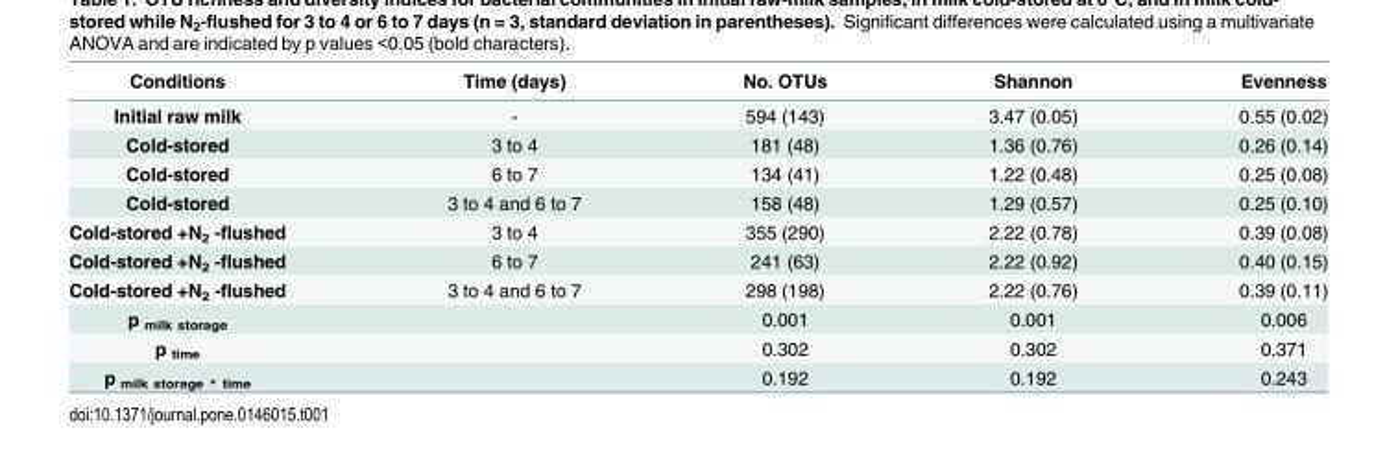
<table><thead><tr><td>Conditions</td><td>Time (days)</td><td>No. OTUs</td><td>Shannon</td><td>Evenness</td></tr></thead><tbody><tr><td>Initial raw milk</td><td>-</td><td>594 (143)</td><td>3.47 (0.05)</td><td>0.55 (0.02)</td></tr><tr><td>Cold-stored</td><td>3 to 4</td><td>181 (48)</td><td>1.36 (0.76)</td><td>0.26 (0.14)</td></tr><tr><td>Cold-stored</td><td>6 to 7</td><td>134 (41)</td><td>1.22 (0.48)</td><td>0.25 (0.08)</td></tr><tr><td>Cold-stored</td><td>3 to 4 and 6 to 7</td><td>158 (48)</td><td>1.29 (0.57)</td><td>0.25 (0.10)</td></tr><tr><td>Cold-stored +N<sub>2</sub> -flushed</td><td>3 to 4</td><td>355 (290)</td><td>2.22 (0.78)</td><td>0.39 (0.08)</td></tr><tr><td>Cold-stored +N<sub>2</sub> -flushed</td><td>6 to 7</td><td>241 (63)</td><td>2.22 (0.92)</td><td>0.40 (0.15)</td></tr><tr><td>Cold-stored +N<sub>2</sub> -flushed</td><td>3 to 4 and 6 to 7</td><td>298 (198)</td><td>2.22 (0.76)</td><td>0.39 (0.11)</td></tr><tr><td>p <sub>milk storage</sub></td><td></td><td>0.001</td><td>0.001</td><td>0.006</td></tr><tr><td>p <sub>time</sub></td><td></td><td>0.302</td><td>0.302</td><td>0.371</td></tr><tr><td>p <sub>milk storage * time</sub></td><td></td><td>0.192</td><td>0.192</td><td>0.243</td></tr></tbody></table>